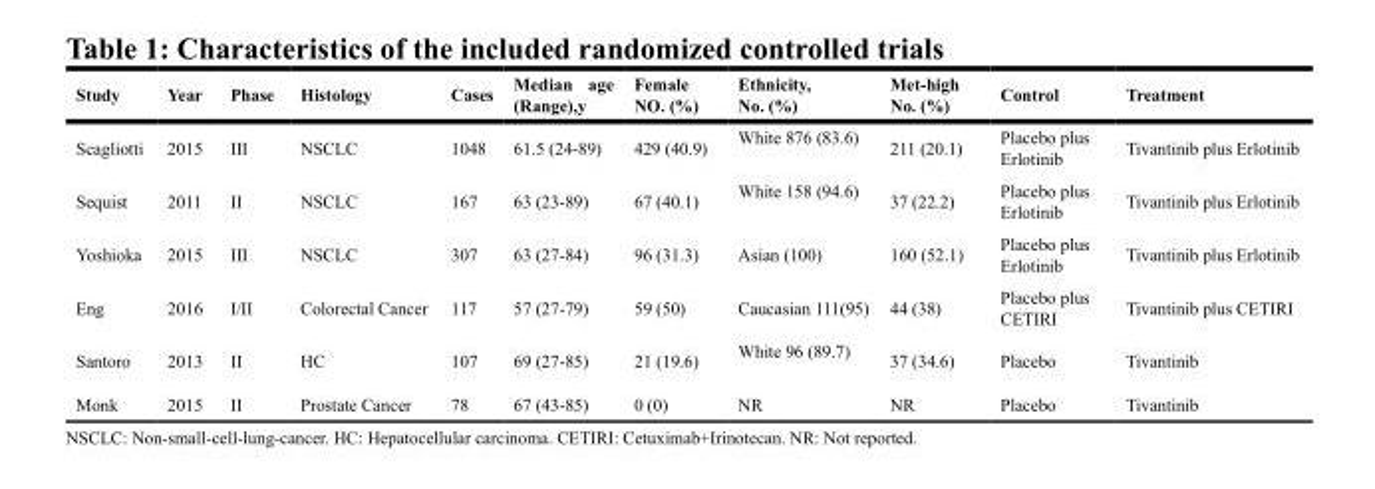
<table><thead><tr><td>Study</td><td>Year</td><td>Phase</td><td>Histology</td><td>Cases</td><td>Median age (Range),y</td><td>Female NO. (%)</td><td>Ethnicity, No. (%)</td><td>Met-high No. (%)</td><td>Control</td><td>Treatment</td></tr></thead><tbody><tr><td>Scagliotti</td><td>2015</td><td>III</td><td>NSCLC</td><td>1048</td><td>61.5 (24-89)</td><td>429 (40.9)</td><td>White 876 (83.6)</td><td>211 (20.1)</td><td>Placebo plus Erlotinib</td><td>Tivantinib plus Erlotinib</td></tr><tr><td>Sequist</td><td>2011</td><td>II</td><td>NSCLC</td><td>167</td><td>63 (23-89)</td><td>67 (40.1)</td><td>White 158 (94.6)</td><td>37 (22.2)</td><td>Placebo plus Erlotinib</td><td>Tivantinib plus Erlotinib</td></tr><tr><td>Yoshioka</td><td>2015</td><td>III</td><td>NSCLC</td><td>307</td><td>63 (27-84)</td><td>96 (31.3)</td><td>Asian (100)</td><td>160 (52.1)</td><td>Placebo plus Erlotinib</td><td>Tivantinib plus Erlotinib</td></tr><tr><td>Eng</td><td>2016</td><td>I/II</td><td>Colorectal Cancer</td><td>117</td><td>57 (27-79)</td><td>59 (50)</td><td>Caucasian 111(95)</td><td>44 (38)</td><td>Placebo plus CETIRI</td><td>Tivantinib plus CETIRI</td></tr><tr><td>Santoro</td><td>2013</td><td>II</td><td>HC</td><td>107</td><td>69 (27-85)</td><td>21 (19.6)</td><td>White 96 (89.7)</td><td>37 (34.6)</td><td>Placebo</td><td>Tivantinib</td></tr><tr><td>Monk</td><td>2015</td><td>II</td><td>Prostate Cancer</td><td>78</td><td>67 (43-85)</td><td>0 (0)</td><td>NR</td><td>NR</td><td>Placebo</td><td>Tivantinib</td></tr></tbody></table>